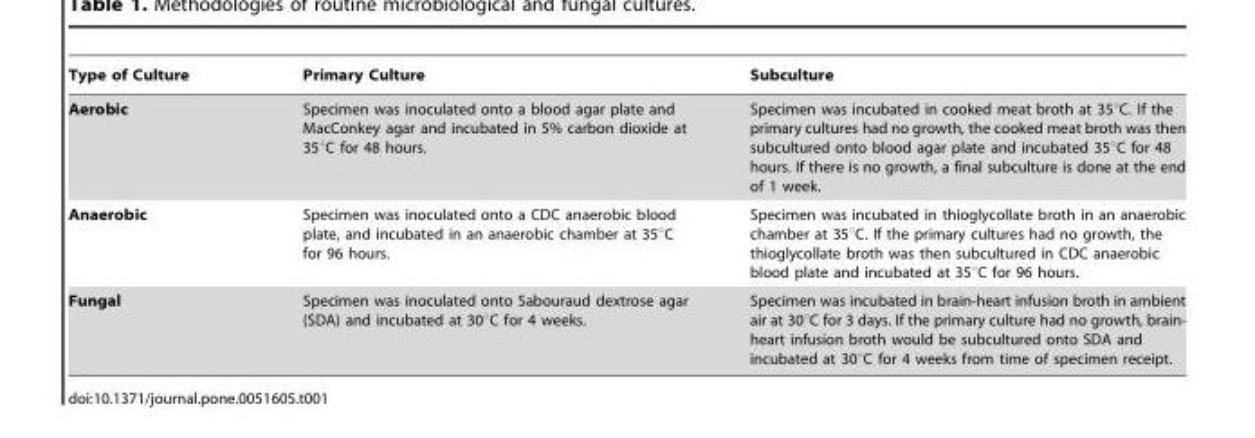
<table><thead><tr><td>Type of Culture</td><td>Primary Culture</td><td>Subculture</td></tr></thead><tbody><tr><td>Aerobic</td><td>Specimen was inoculated onto a blood agar plate and MacConkey agar and incubated in 5% carbon dioxide at 35°C for 48 hours.</td><td>Specimen was incubated in cooked meat broth at 35°C. If the primary cultures had no growth, the cooked meat broth was then subcultured onto blood agar plate and incubated 35°C for 48 hours. If there is no growth, a final subculture is done at the end of 1 week.</td></tr><tr><td>Anaerobic</td><td>Specimen was inoculated onto a CDC anaerobic blood plate, and incubated in an anaerobic chamber at 35°C for 96 hours.</td><td>Specimen was incubated in thioglycollate broth in an anaerobic chamber at 35°C. If the primary cultures had no growth, the thioglycollate broth was then subcultured in CDC anaerobic blood plate and incubated at 35°C for 96 hours.</td></tr><tr><td>Fungal</td><td>Specimen was inoculated onto Sabouraud dextrose agar (SDA) and incubated at 30°C for 4 weeks.</td><td>Specimen was incubated in brain-heart infusion broth in ambient air at 30°C for 3 days. If the primary culture had no growth, brain- heart infusion broth would be subcultured onto SDA and incubated at 30°C for 4 weeks from time of specimen receipt.</td></tr></tbody></table>